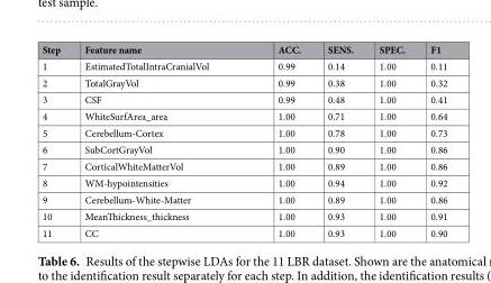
<table><thead><tr><td>Step</td><td>Feature name</td><td>ACC.</td><td>SENS.</td><td>SPEC.</td><td>F1</td></tr></thead><tbody><tr><td>1</td><td>EstimatedTotalIntraCranialVol</td><td>0.99</td><td>0.14</td><td>1.00</td><td>0.11</td></tr><tr><td>2</td><td>TotalGrayVol</td><td>0.99</td><td>0.38</td><td>1.00</td><td>0.32</td></tr><tr><td>3</td><td>CSF</td><td>0.99</td><td>0.48</td><td>1.00</td><td>0.41</td></tr><tr><td>4</td><td>WhiteSurfArea_area</td><td>1.00</td><td>0.71</td><td>1.00</td><td>0.64</td></tr><tr><td>5</td><td>Cerebellum-Cortex</td><td>1.00</td><td>0.78</td><td>1.00</td><td>0.73</td></tr><tr><td>6</td><td>SubCortGrayVol</td><td>1.00</td><td>0.90</td><td>1.00</td><td>0.86</td></tr><tr><td>7</td><td>CorticalWhiteMatterVol</td><td>1.00</td><td>0.89</td><td>1.00</td><td>0.86</td></tr><tr><td>8</td><td>WM-hypointensities</td><td>1.00</td><td>0.94</td><td>1.00</td><td>0.92</td></tr><tr><td>9</td><td>Cerebellum-White-Matter</td><td>1.00</td><td>0.89</td><td>1.00</td><td>0.86</td></tr><tr><td>10</td><td>MeanThickness_thickness</td><td>1.00</td><td>0.93</td><td>1.00</td><td>0.91</td></tr><tr><td>11</td><td>CC</td><td>1.00</td><td>0.93</td><td>1.00</td><td>0.90</td></tr></tbody></table>